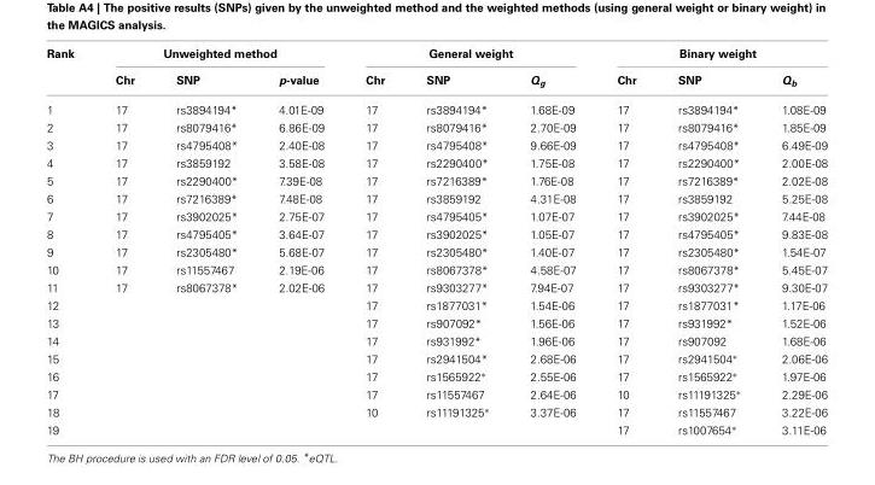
<table><thead><tr><td rowspan="2">Rank</td><td colspan="3">Unweighted method</td><td colspan="3">General weight</td><td colspan="3">Binary weight</td></tr><tr><td>Chr</td><td>SNP</td><td>p-value</td><td>Chr</td><td>SNP</td><td>Q<sub>g</sub></td><td>Chr</td><td>SNP</td><td>Q<sub>b</sub></td></tr></thead><tbody><tr><td>1</td><td>17</td><td>rs3894194*</td><td>4.01E-09</td><td>17</td><td>rs3894194*</td><td>1.68E-09</td><td>17</td><td>rs3894194*</td><td>1.08E-09</td></tr><tr><td>2</td><td>17</td><td>rs8079416*</td><td>6.86E-09</td><td>17</td><td>rs8079416*</td><td>2.70E-09</td><td>17</td><td>rs8079416*</td><td>1.85E-09</td></tr><tr><td>3</td><td>17</td><td>rs4795408*</td><td>2.40E-08</td><td>17</td><td>rs4795408*</td><td>9.66E-09</td><td>17</td><td>rs4795408*</td><td>6.49E-09</td></tr><tr><td>4</td><td>17</td><td>rs3859192</td><td>3.58E-08</td><td>17</td><td>rs2290400*</td><td>1.75E-08</td><td>17</td><td>rs2290400*</td><td>2.00E-08</td></tr><tr><td>5</td><td>17</td><td>rs2290400*</td><td>7.39E-08</td><td>17</td><td>rs7216389*</td><td>1.76E-08</td><td>17</td><td>rs7216389*</td><td>2.02E-08</td></tr><tr><td>6</td><td>17</td><td>rs7216389*</td><td>7.48E-08</td><td>17</td><td>rs3859192</td><td>4.31E-08</td><td>17</td><td>rs3859192</td><td>5.25E-08</td></tr><tr><td>7</td><td>17</td><td>rs3902025*</td><td>2.75E-07</td><td>17</td><td>rs4795405*</td><td>1.07E-07</td><td>17</td><td>rs3902025*</td><td>7.44E-08</td></tr><tr><td>8</td><td>17</td><td>rs4795405*</td><td>3.64E-07</td><td>17</td><td>rs3902025*</td><td>1.05E-07</td><td>17</td><td>rs4795405*</td><td>9.83E-08</td></tr><tr><td>9</td><td>17</td><td>rs2305480*</td><td>5.68E-07</td><td>17</td><td>rs2305480*</td><td>1.40E-07</td><td>17</td><td>rs2305480*</td><td>1.54E-07</td></tr><tr><td>10</td><td>17</td><td>rs11557467</td><td>2.19E-06</td><td>17</td><td>rs8067378*</td><td>4.58E-07</td><td>17</td><td>rs8067378*</td><td>5.45E-07</td></tr><tr><td>11</td><td>17</td><td>rs8067378*</td><td>2.02E-06</td><td>17</td><td>rs9303277*</td><td>7.94E-07</td><td>17</td><td>rs9303277*</td><td>9.30E-07</td></tr><tr><td>12</td><td></td><td></td><td></td><td>17</td><td>rs1877031*</td><td>1.54E-06</td><td>17</td><td>rs1877031*</td><td>1.17E-06</td></tr><tr><td>13</td><td></td><td></td><td></td><td>17</td><td>rs907092*</td><td>1.56E-06</td><td>17</td><td>rs931992*</td><td>1.52E-06</td></tr><tr><td>14</td><td></td><td></td><td></td><td>17</td><td>rs931992*</td><td>1.96E-06</td><td>17</td><td>rs907092</td><td>1.68E-06</td></tr><tr><td>15</td><td></td><td></td><td></td><td>17</td><td>rs2941504*</td><td>2.68E-06</td><td>17</td><td>rs2941504∗</td><td>2.06E-06</td></tr><tr><td>16</td><td></td><td></td><td></td><td>17</td><td>rs1565922∗</td><td>2.55E-06</td><td>17</td><td>rs1565922∗</td><td>1.97E-06</td></tr><tr><td>17</td><td></td><td></td><td></td><td>17</td><td>rs11557467</td><td>2.64E-06</td><td>10</td><td>rs11191325∗</td><td>2.29E-06</td></tr><tr><td>18</td><td></td><td></td><td></td><td>10</td><td>rs11191325∗</td><td>3.37E-06</td><td>17</td><td>rs11557467</td><td>3.22E-06</td></tr><tr><td>19</td><td></td><td></td><td></td><td></td><td></td><td></td><td>17</td><td>rs1007654∗</td><td>3.11E-06</td></tr></tbody></table>